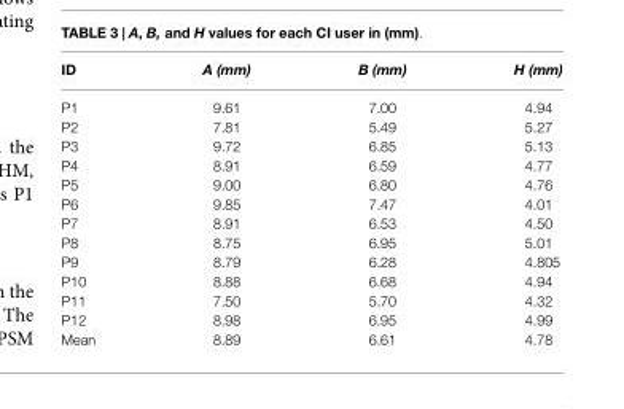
<table><thead><tr><td>ID</td><td>A (mm)</td><td>B (mm)</td><td>H (mm)</td></tr></thead><tbody><tr><td>P1</td><td>9.61</td><td>7.00</td><td>4.94</td></tr><tr><td>P2</td><td>7.81</td><td>5.49</td><td>5.27</td></tr><tr><td>P3</td><td>9.72</td><td>6.85</td><td>5.13</td></tr><tr><td>P4</td><td>8.91</td><td>6.59</td><td>4.77</td></tr><tr><td>P5</td><td>9.00</td><td>6.80</td><td>4.76</td></tr><tr><td>P6</td><td>9.85</td><td>7.47</td><td>4.01</td></tr><tr><td>P7</td><td>8.91</td><td>6.53</td><td>4.50</td></tr><tr><td>P8</td><td>8.75</td><td>6.95</td><td>5.01</td></tr><tr><td>P9</td><td>8.79</td><td>6.28</td><td>4.805</td></tr><tr><td>P10</td><td>8.88</td><td>6.68</td><td>4.94</td></tr><tr><td>P11</td><td>7.50</td><td>5.70</td><td>4.32</td></tr><tr><td>P12</td><td>8.98</td><td>6.95</td><td>4.99</td></tr><tr><td>Mean</td><td>8.89</td><td>6.61</td><td>4.78</td></tr></tbody></table>